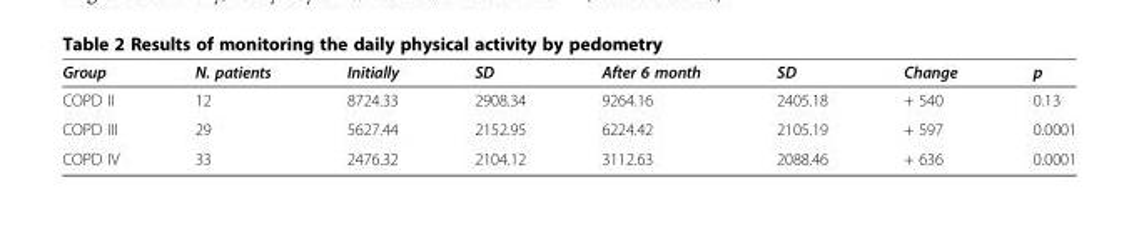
<table><thead><tr><td>Group</td><td>N. patients</td><td>Initially</td><td>SD</td><td>After 6 month</td><td>SD</td><td>Change</td><td>p</td></tr></thead><tbody><tr><td>COPD II</td><td>12</td><td>8724.33</td><td>2908.34</td><td>9264.16</td><td>2405.18</td><td>+ 540</td><td>0.13</td></tr><tr><td>COPD III</td><td>29</td><td>5627.44</td><td>2152.95</td><td>6224.42</td><td>2105.19</td><td>+ 597</td><td>0.0001</td></tr><tr><td>COPD IV</td><td>33</td><td>2476.32</td><td>2104.12</td><td>3112.63</td><td>2088.46</td><td>+ 636</td><td>0.0001</td></tr></tbody></table>